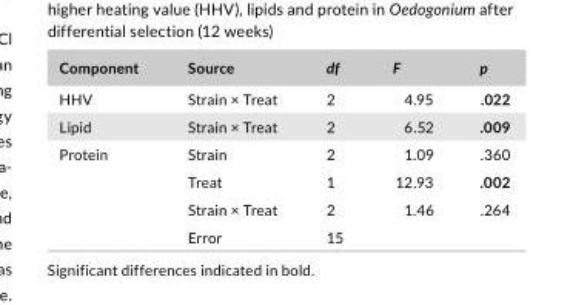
<table><thead><tr><td>Component</td><td>Source</td><td>df</td><td>F</td><td>p</td></tr></thead><tbody><tr><td>HHV</td><td>Strain × Treat</td><td>2</td><td>4.95</td><td>.022</td></tr><tr><td>Lipid</td><td>Strain × Treat</td><td>2</td><td>6.52</td><td>.009</td></tr><tr><td rowspan="4">Protein</td><td>Strain</td><td>2</td><td>1.09</td><td>.360</td></tr><tr><td>Treat</td><td>1</td><td>12.93</td><td>.002</td></tr><tr><td>Strain × Treat</td><td>2</td><td>1.46</td><td>.264</td></tr><tr><td>Error</td><td>15</td><td></td><td></td></tr></tbody></table>